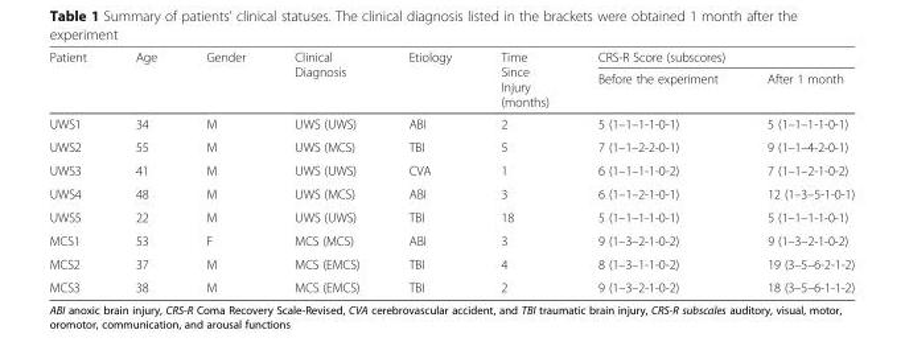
<table><thead><tr><td rowspan="2">Patient</td><td rowspan="2">Age</td><td rowspan="2">Gender</td><td rowspan="2">Clinical Diagnosis</td><td rowspan="2">Etiology</td><td rowspan="2">Time Since Injury (months)</td><td colspan="2">CRS-R Score (subscores)</td></tr><tr><td>Before the experiment</td><td>After 1 month</td></tr></thead><tbody><tr><td>UWS1</td><td>34</td><td>M</td><td>UWS (UWS)</td><td>ABI</td><td>2</td><td>5 (1–1–1-1-0-1)</td><td>5 (1–1–1-1-0-1)</td></tr><tr><td>UWS2</td><td>55</td><td>M</td><td>UWS (MCS)</td><td>TBI</td><td>5</td><td>7 (1–1–2-2-0-1)</td><td>9 (1–1–4-2-0-1)</td></tr><tr><td>UWS3</td><td>41</td><td>M</td><td>UWS (UWS)</td><td>CVA</td><td>1</td><td>6 (1–1–1-1-0-2)</td><td>7 (1–1–2-1-0-2)</td></tr><tr><td>UWS4</td><td>48</td><td>M</td><td>UWS (MCS)</td><td>ABI</td><td>3</td><td>6 (1–1–2-1-0-1)</td><td>12 (1–3–5-1-0-1)</td></tr><tr><td>UWS5</td><td>22</td><td>M</td><td>UWS (UWS)</td><td>TBI</td><td>18</td><td>5 (1–1–1-1-0-1)</td><td>5 (1–1–1-1-0-1)</td></tr><tr><td>MCS1</td><td>53</td><td>F</td><td>MCS (MCS)</td><td>ABI</td><td>3</td><td>9 (1–3–2-1-0-2)</td><td>9 (1–3–2-1-0-2)</td></tr><tr><td>MCS2</td><td>37</td><td>M</td><td>MCS (EMCS)</td><td>TBI</td><td>4</td><td>8 (1–3–1-1-0-2)</td><td>19 (3–5–6-2-1-2)</td></tr><tr><td>MCS3</td><td>38</td><td>M</td><td>MCS (EMCS)</td><td>TBI</td><td>2</td><td>9 (1–3–2-1-0-2)</td><td>18 (3–5–6-1-1-2)</td></tr></tbody></table>